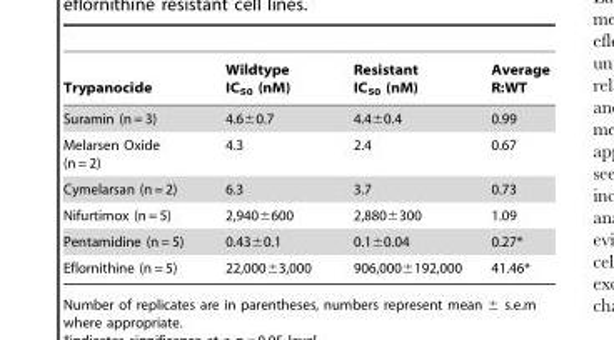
<table><thead><tr><td>Trypanocide</td><td>Wildtype IC<sub>50</sub> (nM)</td><td>Resistant IC<sub>50</sub> (nM)</td><td>Average R:WT</td></tr></thead><tbody><tr><td>Suramin (n = 3)</td><td>4.6±0.7</td><td>4.4±0.4</td><td>0.99</td></tr><tr><td>Melarsen Oxide (n = 2)</td><td>4.3</td><td>2.4</td><td>0.67</td></tr><tr><td>Cymelarsan (n = 2)</td><td>6.3</td><td>3.7</td><td>0.73</td></tr><tr><td>Nifurtimox (n = 5)</td><td>2,940±600</td><td>2,880±300</td><td>1.09</td></tr><tr><td>Pentamidine (n = 5)</td><td>0.43±0.1</td><td>0.1±0.04</td><td>0.27*</td></tr><tr><td>Eflornithine (n = 5)</td><td>22,000±3,000</td><td>906,000±192,000</td><td>41.46*</td></tr></tbody></table>